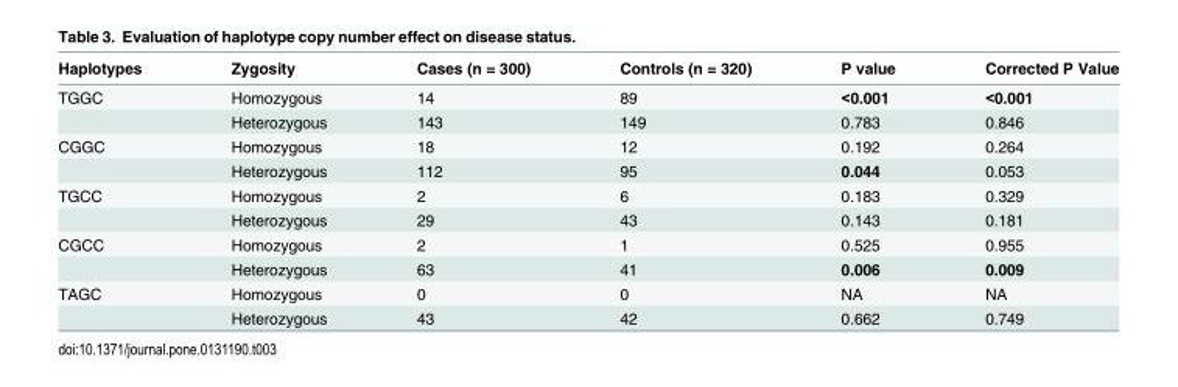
<table><thead><tr><td>Haplotypes</td><td>Zygosity</td><td>Cases (n = 300)</td><td>Controls (n = 320)</td><td>P value</td><td>Corrected P Value</td></tr></thead><tbody><tr><td rowspan="2">TGGC</td><td>Homozygous</td><td>14</td><td>89</td><td>&lt;0.001</td><td>&lt;0.001</td></tr><tr><td>Heterozygous</td><td>143</td><td>149</td><td>0.783</td><td>0.846</td></tr><tr><td rowspan="2">CGGC</td><td>Homozygous</td><td>18</td><td>12</td><td>0.192</td><td>0.264</td></tr><tr><td>Heterozygous</td><td>112</td><td>95</td><td>0.044</td><td>0.053</td></tr><tr><td rowspan="2">TGCC</td><td>Homozygous</td><td>2</td><td>6</td><td>0.183</td><td>0.329</td></tr><tr><td>Heterozygous</td><td>29</td><td>43</td><td>0.143</td><td>0.181</td></tr><tr><td rowspan="2">CGCC</td><td>Homozygous</td><td>2</td><td>1</td><td>0.525</td><td>0.955</td></tr><tr><td>Heterozygous</td><td>63</td><td>41</td><td>0.006</td><td>0.009</td></tr><tr><td rowspan="2">TAGC</td><td>Homozygous</td><td>0</td><td>0</td><td>NA</td><td>NA</td></tr><tr><td>Heterozygous</td><td>43</td><td>42</td><td>0.662</td><td>0.749</td></tr></tbody></table>